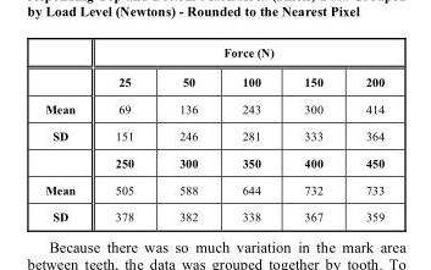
<table><thead><tr><td rowspan="2"></td><td colspan="5">Force (N)</td></tr><tr><td>25</td><td>50</td><td>100</td><td>150</td><td>200</td></tr></thead><tbody><tr><td>Mean</td><td>69</td><td>136</td><td>243</td><td>300</td><td>414</td></tr><tr><td rowspan="2">SD</td><td>151</td><td>246</td><td>281</td><td>333</td><td>364</td></tr><tr><td>250</td><td>300</td><td>350</td><td>400</td><td>450</td></tr><tr><td>Mean</td><td>505</td><td>588</td><td>644</td><td>732</td><td>733</td></tr><tr><td>SD</td><td>378</td><td>382</td><td>338</td><td>367</td><td>359</td></tr></tbody></table>